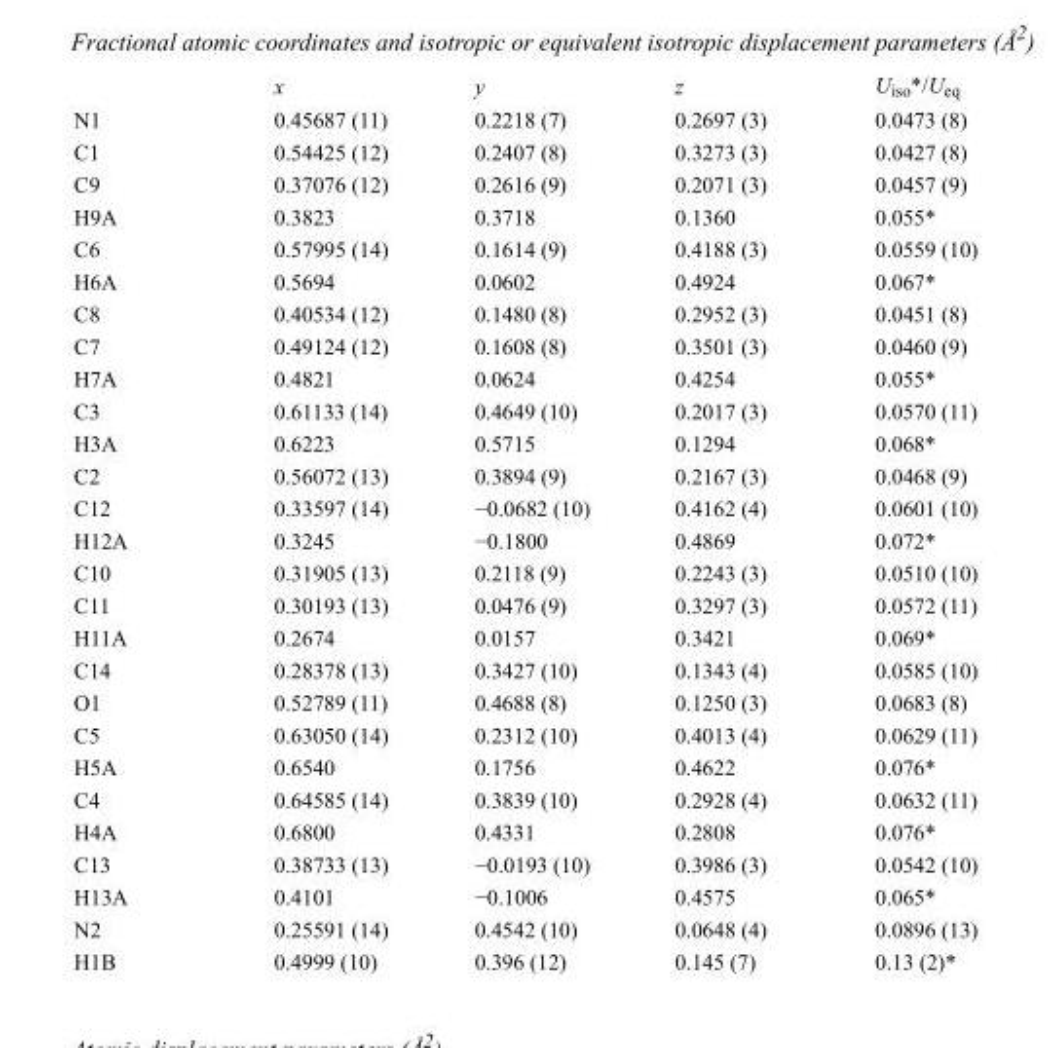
<table><thead><tr><td></td><td>x</td><td>y</td><td>z</td><td>U<sub>iso</sub>*/U<sub>eq</sub></td></tr></thead><tbody><tr><td>N1</td><td>0.45687 (11)</td><td>0.2218 (7)</td><td>0.2697 (3)</td><td>0.0473 (8)</td></tr><tr><td>C1</td><td>0.54425 (12)</td><td>0.2407 (8)</td><td>0.3273 (3)</td><td>0.0427 (8)</td></tr><tr><td>C9</td><td>0.37076 (12)</td><td>0.2616 (9)</td><td>0.2071 (3)</td><td>0.0457 (9)</td></tr><tr><td>H9A</td><td>0.3823</td><td>0.3718</td><td>0.1360</td><td>0.055*</td></tr><tr><td>C6</td><td>0.57995 (14)</td><td>0.1614 (9)</td><td>0.4188 (3)</td><td>0.0559 (10)</td></tr><tr><td>H6A</td><td>0.5694</td><td>0.0602</td><td>0.4924</td><td>0.067*</td></tr><tr><td>C8</td><td>0.40534 (12)</td><td>0.1480 (8)</td><td>0.2952 (3)</td><td>0.0451 (8)</td></tr><tr><td>C7</td><td>0.49124 (12)</td><td>0.1608 (8)</td><td>0.3501 (3)</td><td>0.0460 (9)</td></tr><tr><td>H7A</td><td>0.4821</td><td>0.0624</td><td>0.4254</td><td>0.055*</td></tr><tr><td>C3</td><td>0.61133 (14)</td><td>0.4649 (10)</td><td>0.2017 (3)</td><td>0.0570 (11)</td></tr><tr><td>H3A</td><td>0.6223</td><td>0.5715</td><td>0.1294</td><td>0.068*</td></tr><tr><td>C2</td><td>0.56072 (13)</td><td>0.3894 (9)</td><td>0.2167 (3)</td><td>0.0468 (9)</td></tr><tr><td>C12</td><td>0.33597 (14)</td><td>−0.0682 (10)</td><td>0.4162 (4)</td><td>0.0601 (10)</td></tr><tr><td>H12A</td><td>0.3245</td><td>−0.1800</td><td>0.4869</td><td>0.072*</td></tr><tr><td>C10</td><td>0.31905 (13)</td><td>0.2118 (9)</td><td>0.2243 (3)</td><td>0.0510 (10)</td></tr><tr><td>C11</td><td>0.30193 (13)</td><td>0.0476 (9)</td><td>0.3297 (3)</td><td>0.0572 (11)</td></tr><tr><td>H11A</td><td>0.2674</td><td>0.0157</td><td>0.3421</td><td>0.069*</td></tr><tr><td>C14</td><td>0.28378 (13)</td><td>0.3427 (10)</td><td>0.1343 (4)</td><td>0.0585 (10)</td></tr><tr><td>O1</td><td>0.52789 (11)</td><td>0.4688 (8)</td><td>0.1250 (3)</td><td>0.0683 (8)</td></tr><tr><td>C5</td><td>0.63050 (14)</td><td>0.2312 (10)</td><td>0.4013 (4)</td><td>0.0629 (11)</td></tr><tr><td>H5A</td><td>0.6540</td><td>0.1756</td><td>0.4622</td><td>0.076*</td></tr><tr><td>C4</td><td>0.64585 (14)</td><td>0.3839 (10)</td><td>0.2928 (4)</td><td>0.0632 (11)</td></tr><tr><td>H4A</td><td>0.6800</td><td>0.4331</td><td>0.2808</td><td>0.076*</td></tr><tr><td>C13</td><td>0.38733 (13)</td><td>−0.0193 (10)</td><td>0.3986 (3)</td><td>0.0542 (10)</td></tr><tr><td>H13A</td><td>0.4101</td><td>−0.1006</td><td>0.4575</td><td>0.065*</td></tr><tr><td>N2</td><td>0.25591 (14)</td><td>0.4542 (10)</td><td>0.0648 (4)</td><td>0.0896 (13)</td></tr><tr><td>H1B</td><td>0.4999 (10)</td><td>0.396 (12)</td><td>0.145 (7)</td><td>0.13 (2)*</td></tr></tbody></table>